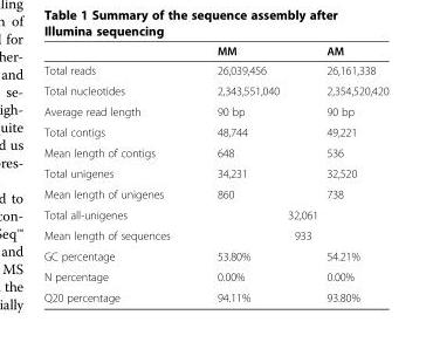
<table><thead><tr><td></td><td>MM</td><td>AM</td></tr></thead><tbody><tr><td>Total reads</td><td>26,039,456</td><td>26,161,338</td></tr><tr><td>Total nucleotides</td><td>2,343,551,040</td><td>2,354,520,420</td></tr><tr><td>Average read length</td><td>90 bp</td><td>90 bp</td></tr><tr><td>Total contigs</td><td>48,744</td><td>49,221</td></tr><tr><td>Mean length of contigs</td><td>648</td><td>536</td></tr><tr><td>Total unigenes</td><td>34,231</td><td>32,520</td></tr><tr><td>Mean length of unigenes</td><td>860</td><td>738</td></tr><tr><td>Total all-unigenes</td><td>32,061</td><td></td></tr><tr><td>Mean length of sequences</td><td>933</td><td></td></tr><tr><td>GC percentage</td><td>53.80%</td><td>54.21%</td></tr><tr><td>N percentage</td><td>0.00%</td><td>0.00%</td></tr><tr><td>Q20 percentage</td><td>94.11%</td><td>93.80%</td></tr></tbody></table>